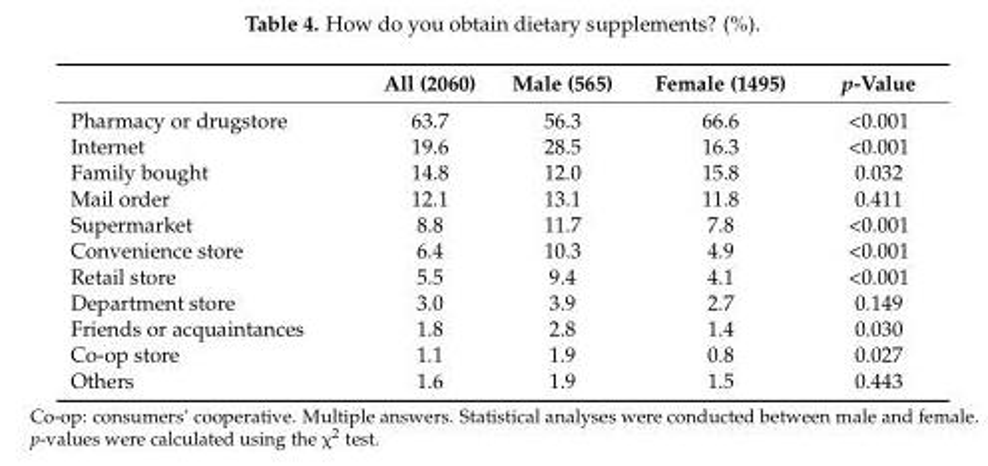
<table><thead><tr><td></td><td>All (2060)</td><td>Male (565)</td><td>Female (1495)</td><td>p-Value</td></tr></thead><tbody><tr><td>Pharmacy or drugstore</td><td>63.7</td><td>56.3</td><td>66.6</td><td>&lt;0.001</td></tr><tr><td>Internet</td><td>19.6</td><td>28.5</td><td>16.3</td><td>&lt;0.001</td></tr><tr><td>Family bought</td><td>14.8</td><td>12.0</td><td>15.8</td><td>0.032</td></tr><tr><td>Mail order</td><td>12.1</td><td>13.1</td><td>11.8</td><td>0.411</td></tr><tr><td>Supermarket</td><td>8.8</td><td>11.7</td><td>7.8</td><td>&lt;0.001</td></tr><tr><td>Convenience store</td><td>6.4</td><td>10.3</td><td>4.9</td><td>&lt;0.001</td></tr><tr><td>Retail store</td><td>5.5</td><td>9.4</td><td>4.1</td><td>&lt;0.001</td></tr><tr><td>Department store</td><td>3.0</td><td>3.9</td><td>2.7</td><td>0.149</td></tr><tr><td>Friends or acquaintances</td><td>1.8</td><td>2.8</td><td>1.4</td><td>0.030</td></tr><tr><td>Co-op store</td><td>1.1</td><td>1.9</td><td>0.8</td><td>0.027</td></tr><tr><td>Others</td><td>1.6</td><td>1.9</td><td>1.5</td><td>0.443</td></tr></tbody></table>